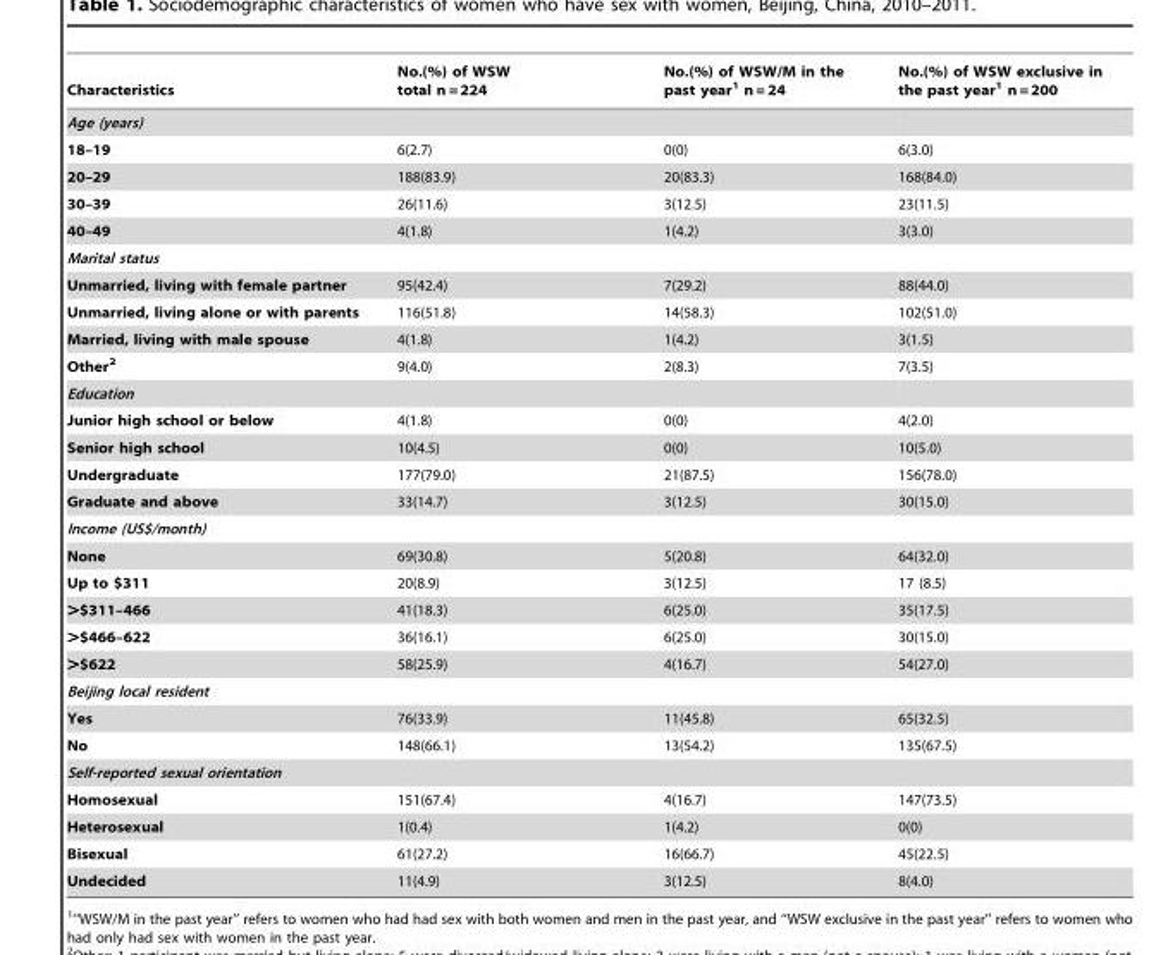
<table><thead><tr><td>Characteristics</td><td>No.(%) of WSW total n = 224</td><td>No.(%) of WSW/M in the past year<sup>1</sup> n = 24</td><td>No.(%) of WSW exclusive in the past year<sup>1</sup> n = 200</td></tr></thead><tbody><tr><td colspan="4">Age (years)</td></tr><tr><td>18–19</td><td>6(2.7)</td><td>0(0)</td><td>6(3.0)</td></tr><tr><td>20–29</td><td>188(83.9)</td><td>20(83.3)</td><td>168(84.0)</td></tr><tr><td>30–39</td><td>26(11.6)</td><td>3(12.5)</td><td>23(11.5)</td></tr><tr><td>40–49</td><td>4(1.8)</td><td>1(4.2)</td><td>3(3.0)</td></tr><tr><td colspan="4">Marital status</td></tr><tr><td>Unmarried, living with female partner</td><td>95(42.4)</td><td>7(29.2)</td><td>88(44.0)</td></tr><tr><td>Unmarried, living alone or with parents</td><td>116(51.8)</td><td>14(58.3)</td><td>102(51.0)</td></tr><tr><td>Married, living with male spouse</td><td>4(1.8)</td><td>1(4.2)</td><td>3(1.5)</td></tr><tr><td>Other2</td><td>9(4.0)</td><td>2(8.3)</td><td>7(3.5)</td></tr><tr><td colspan="4">Education</td></tr><tr><td>Junior high school or below</td><td>4(1.8)</td><td>0(0)</td><td>4(2.0)</td></tr><tr><td>Senior high school</td><td>10(4.5)</td><td>0(0)</td><td>10(5.0)</td></tr><tr><td>Undergraduate</td><td>177(79.0)</td><td>21(87.5)</td><td>156(78.0)</td></tr><tr><td>Graduate and above</td><td>33(14.7)</td><td>3(12.5)</td><td>30(15.0)</td></tr><tr><td colspan="4">Income (US$/month)</td></tr><tr><td>None</td><td>69(30.8)</td><td>5(20.8)</td><td>64(32.0)</td></tr><tr><td>Up to $311</td><td>20(8.9)</td><td>3(12.5)</td><td>17 (8.5)</td></tr><tr><td>&gt;$311–466</td><td>41(18.3)</td><td>6(25.0)</td><td>35(17.5)</td></tr><tr><td>&gt;$466–622</td><td>36(16.1)</td><td>6(25.0)</td><td>30(15.0)</td></tr><tr><td>&gt;$622</td><td>58(25.9)</td><td>4(16.7)</td><td>54(27.0)</td></tr><tr><td colspan="4">Beijing local resident</td></tr><tr><td>Yes</td><td>76(33.9)</td><td>11(45.8)</td><td>65(32.5)</td></tr><tr><td>No</td><td>148(66.1)</td><td>13(54.2)</td><td>135(67.5)</td></tr><tr><td colspan="4">Self-reported sexual orientation</td></tr><tr><td>Homosexual</td><td>151(67.4)</td><td>4(16.7)</td><td>147(73.5)</td></tr><tr><td>Heterosexual</td><td>1(0.4)</td><td>1(4.2)</td><td>0(0)</td></tr><tr><td>Bisexual</td><td>61(27.2)</td><td>16(66.7)</td><td>45(22.5)</td></tr><tr><td>Undecided</td><td>11(4.9)</td><td>3(12.5)</td><td>8(4.0)</td></tr></tbody></table>